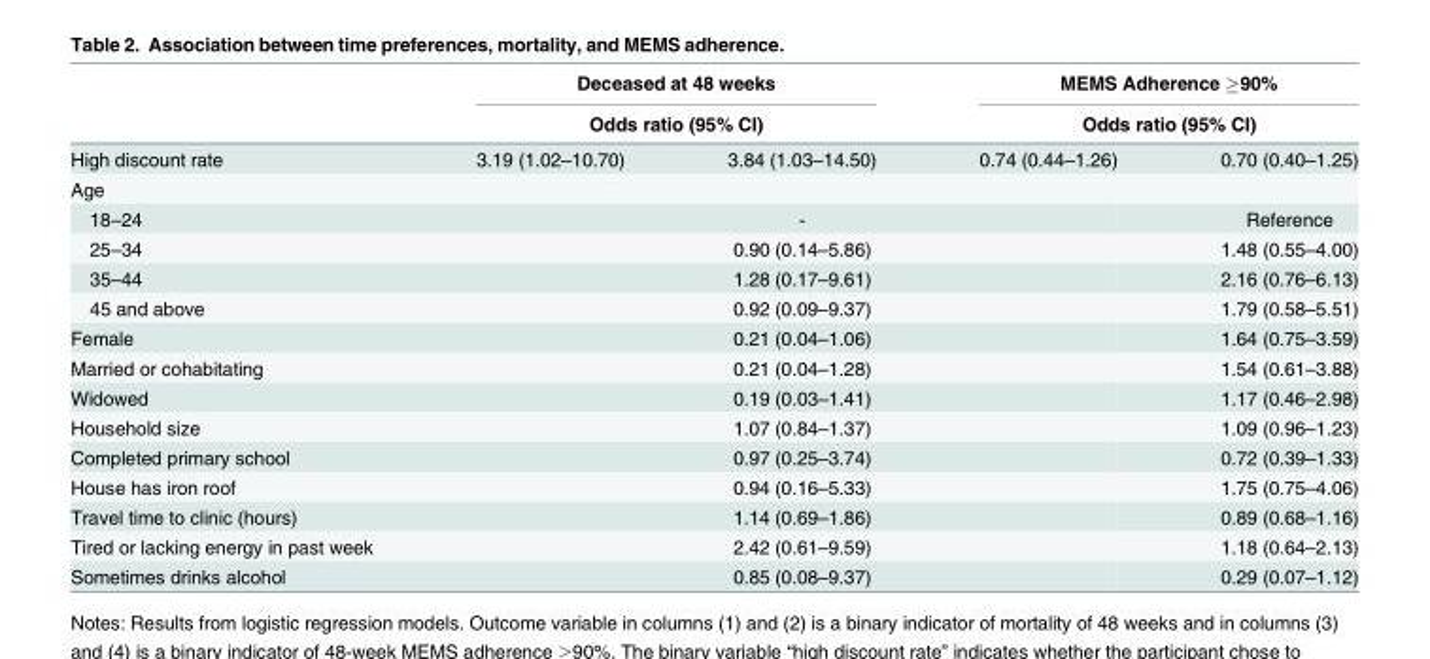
<table><thead><tr><td rowspan="3">High discount rate</td><td rowspan="2" colspan="2">Deceased at 48 weeks Odds ratio (95% CI)</td><td rowspan="2" colspan="2">MEMS Adherence ≥90% Odds ratio (95% CI)</td></tr><tr></tr><tr><td>3.19 (1.02–10.70)</td><td>3.84 (1.03–14.50)</td><td>0.74 (0.44–1.26)</td><td>0.70 (0.40–1.25)</td></tr></thead><tbody><tr><td colspan="5">Age</td></tr><tr><td>18–24</td><td></td><td>-</td><td></td><td>Reference</td></tr><tr><td>25–34</td><td></td><td>0.90 (0.14–5.86)</td><td></td><td>1.48 (0.55–4.00)</td></tr><tr><td>35–44</td><td></td><td>1.28 (0.17–9.61)</td><td></td><td>2.16 (0.76–6.13)</td></tr><tr><td>45 and above</td><td></td><td>0.92 (0.09–9.37)</td><td></td><td>1.79 (0.58–5.51)</td></tr><tr><td>Female</td><td></td><td>0.21 (0.04–1.06)</td><td></td><td>1.64 (0.75–3.59)</td></tr><tr><td>Married or cohabitating</td><td></td><td>0.21 (0.04–1.28)</td><td></td><td>1.54 (0.61–3.88)</td></tr><tr><td>Widowed</td><td></td><td>0.19 (0.03–1.41)</td><td></td><td>1.17 (0.46–2.98)</td></tr><tr><td>Household size</td><td></td><td>1.07 (0.84–1.37)</td><td></td><td>1.09 (0.96–1.23)</td></tr><tr><td>Completed primary school</td><td></td><td>0.97 (0.25–3.74)</td><td></td><td>0.72 (0.39–1.33)</td></tr><tr><td>House has iron roof</td><td></td><td>0.94 (0.16–5.33)</td><td></td><td>1.75 (0.75–4.06)</td></tr><tr><td>Travel time to clinic (hours)</td><td></td><td>1.14 (0.69–1.86)</td><td></td><td>0.89 (0.68–1.16)</td></tr><tr><td>Tired or lacking energy in past week</td><td></td><td>2.42 (0.61–9.59)</td><td></td><td>1.18 (0.64–2.13)</td></tr><tr><td>Sometimes drinks alcohol</td><td></td><td>0.85 (0.08–9.37)</td><td></td><td>0.29 (0.07–1.12)</td></tr></tbody></table>